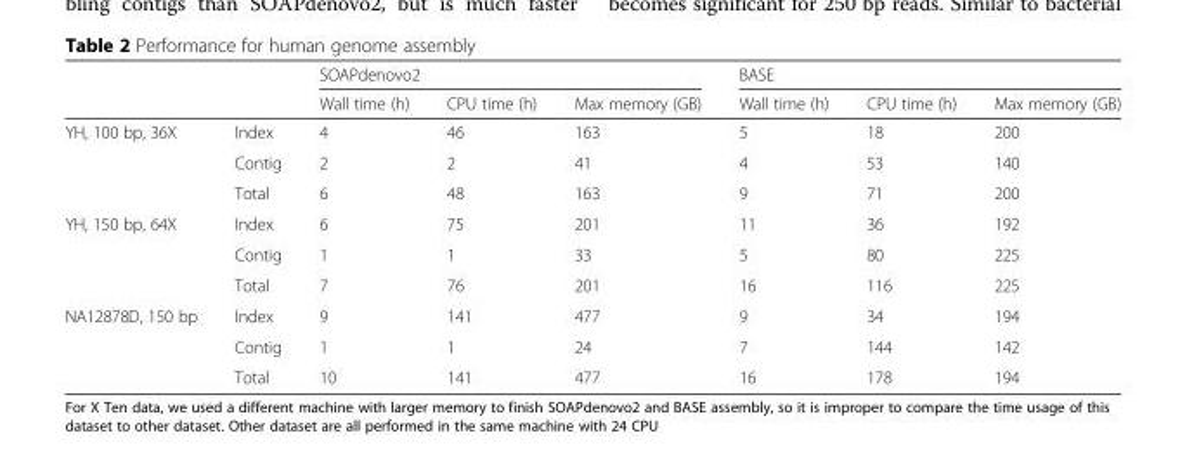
<table><thead><tr><td rowspan="2"></td><td rowspan="2"></td><td colspan="3">SOAPdenovo2</td><td colspan="3">BASE</td></tr><tr><td>Wall time (h)</td><td>CPU time (h)</td><td>Max memory (GB)</td><td>Wall time (h)</td><td>CPU time (h)</td><td>Max memory (GB)</td></tr></thead><tbody><tr><td rowspan="3">YH, 100 bp, 36X</td><td>Index</td><td>4</td><td>46</td><td>163</td><td>5</td><td>18</td><td>200</td></tr><tr><td>Contig</td><td>2</td><td>2</td><td>41</td><td>4</td><td>53</td><td>140</td></tr><tr><td>Total</td><td>6</td><td>48</td><td>163</td><td>9</td><td>71</td><td>200</td></tr><tr><td rowspan="3">YH, 150 bp, 64X</td><td>Index</td><td>6</td><td>75</td><td>201</td><td>11</td><td>36</td><td>192</td></tr><tr><td>Contig</td><td>1</td><td>1</td><td>33</td><td>5</td><td>80</td><td>225</td></tr><tr><td>Total</td><td>7</td><td>76</td><td>201</td><td>16</td><td>116</td><td>225</td></tr><tr><td rowspan="3">NA12878D, 150 bp</td><td>Index</td><td>9</td><td>141</td><td>477</td><td>9</td><td>34</td><td>194</td></tr><tr><td>Contig</td><td>1</td><td>1</td><td>24</td><td>7</td><td>144</td><td>142</td></tr><tr><td>Total</td><td>10</td><td>141</td><td>477</td><td>16</td><td>178</td><td>194</td></tr></tbody></table>